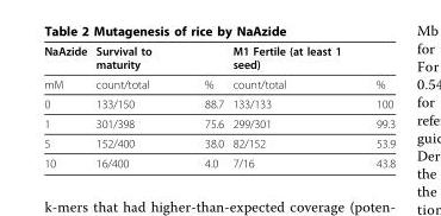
<table><thead><tr><td>NaAzide</td><td>Survival to maturity</td><td></td><td>M1 Fertile (at least 1 seed)</td><td></td></tr></thead><tbody><tr><td>mM</td><td>count/total</td><td>%</td><td>count/total</td><td>%</td></tr><tr><td>0</td><td>133/150</td><td>88.7</td><td>133/133</td><td>100</td></tr><tr><td>1</td><td>301/398</td><td>75.6</td><td>299/301</td><td>99.3</td></tr><tr><td>5</td><td>152/400</td><td>38.0</td><td>82/152</td><td>53.9</td></tr><tr><td>10</td><td>16/400</td><td>4.0</td><td>7/16</td><td>43.8</td></tr></tbody></table>